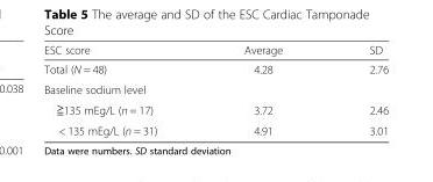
<table><thead><tr><td>ESC score</td><td>Average</td><td>SD</td></tr></thead><tbody><tr><td>Total (N = 48)</td><td>4.28</td><td>2.76</td></tr><tr><td colspan="3">Baseline sodium level</td></tr><tr><td>≧135 mEg/L (n = 17)</td><td>3.72</td><td>2.46</td></tr><tr><td>&lt; 135 mEg/L (n = 31)</td><td>4.91</td><td>3.01</td></tr></tbody></table>